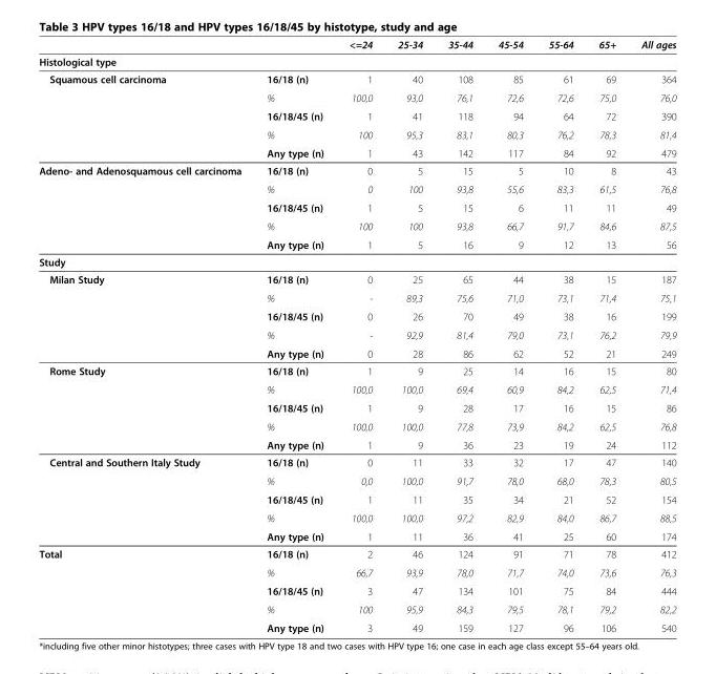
<table><thead><tr><td></td><td></td><td>&lt;=24</td><td>25-34</td><td>35-44</td><td>45-54</td><td>55-64</td><td>65+</td><td>All ages</td></tr></thead><tbody><tr><td colspan="9">Histological type</td></tr><tr><td rowspan="5">Squamous cell carcinoma</td><td>16/18 (n)</td><td>1</td><td>40</td><td>108</td><td>85</td><td>61</td><td>69</td><td>364</td></tr><tr><td>%</td><td>100,0</td><td>93,0</td><td>76,1</td><td>72,6</td><td>72,6</td><td>75,0</td><td>76,0</td></tr><tr><td>16/18/45 (n)</td><td>1</td><td>41</td><td>118</td><td>94</td><td>64</td><td>72</td><td>390</td></tr><tr><td>%</td><td>100</td><td>95,3</td><td>83,1</td><td>80,3</td><td>76,2</td><td>78,3</td><td>81,4</td></tr><tr><td>Any type (n)</td><td>1</td><td>43</td><td>142</td><td>117</td><td>84</td><td>92</td><td>479</td></tr><tr><td rowspan="5">Adeno- and Adenosquamous cell carcinoma</td><td>16/18 (n)</td><td>0</td><td>5</td><td>15</td><td>5</td><td>10</td><td>8</td><td>43</td></tr><tr><td>%</td><td>0</td><td>100</td><td>93,8</td><td>55,6</td><td>83,3</td><td>61,5</td><td>76,8</td></tr><tr><td>16/18/45 (n)</td><td>1</td><td>5</td><td>15</td><td>6</td><td>11</td><td>11</td><td>49</td></tr><tr><td>%</td><td>100</td><td>100</td><td>93,8</td><td>66,7</td><td>91,7</td><td>84,6</td><td>87,5</td></tr><tr><td>Any type (n)</td><td>1</td><td>5</td><td>16</td><td>9</td><td>12</td><td>13</td><td>56</td></tr><tr><td colspan="9">Study</td></tr><tr><td rowspan="5">Milan Study</td><td>16/18 (n)</td><td>0</td><td>25</td><td>65</td><td>44</td><td>38</td><td>15</td><td>187</td></tr><tr><td>%</td><td>-</td><td>89,3</td><td>75,6</td><td>71,0</td><td>73,1</td><td>71,4</td><td>75,1</td></tr><tr><td>16/18/45 (n)</td><td>0</td><td>26</td><td>70</td><td>49</td><td>38</td><td>16</td><td>199</td></tr><tr><td>%</td><td>-</td><td>92,9</td><td>81,4</td><td>79,0</td><td>73,1</td><td>76,2</td><td>79,9</td></tr><tr><td>Any type (n)</td><td>0</td><td>28</td><td>86</td><td>62</td><td>52</td><td>21</td><td>249</td></tr><tr><td rowspan="5">Rome Study</td><td>16/18 (n)</td><td>1</td><td>9</td><td>25</td><td>14</td><td>16</td><td>15</td><td>80</td></tr><tr><td>%</td><td>100,0</td><td>100,0</td><td>69,4</td><td>60,9</td><td>84,2</td><td>62,5</td><td>71,4</td></tr><tr><td>16/18/45 (n)</td><td>1</td><td>9</td><td>28</td><td>17</td><td>16</td><td>15</td><td>86</td></tr><tr><td>%</td><td>100,0</td><td>100,0</td><td>77,8</td><td>73,9</td><td>84,2</td><td>62,5</td><td>76,8</td></tr><tr><td>Any type (n)</td><td>1</td><td>9</td><td>36</td><td>23</td><td>19</td><td>24</td><td>112</td></tr><tr><td rowspan="5">Central and Southern Italy Study</td><td>16/18 (n)</td><td>0</td><td>11</td><td>33</td><td>32</td><td>17</td><td>47</td><td>140</td></tr><tr><td>%</td><td>0,0</td><td>100,0</td><td>91,7</td><td>78,0</td><td>68,0</td><td>78,3</td><td>80,5</td></tr><tr><td>16/18/45 (n)</td><td>1</td><td>11</td><td>35</td><td>34</td><td>21</td><td>52</td><td>154</td></tr><tr><td>%</td><td>100,0</td><td>100,0</td><td>97,2</td><td>82,9</td><td>84,0</td><td>86,7</td><td>88,5</td></tr><tr><td>Any type (n)</td><td>1</td><td>11</td><td>36</td><td>41</td><td>25</td><td>60</td><td>174</td></tr><tr><td rowspan="5">Total</td><td>16/18 (n)</td><td>2</td><td>46</td><td>124</td><td>91</td><td>71</td><td>78</td><td>412</td></tr><tr><td>%</td><td>66,7</td><td>93,9</td><td>78,0</td><td>71,7</td><td>74,0</td><td>73,6</td><td>76,3</td></tr><tr><td>16/18/45 (n)</td><td>3</td><td>47</td><td>134</td><td>101</td><td>75</td><td>84</td><td>444</td></tr><tr><td>%</td><td>100</td><td>95,9</td><td>84,3</td><td>79,5</td><td>78,1</td><td>79,2</td><td>82,2</td></tr><tr><td>Any type (n)</td><td>3</td><td>49</td><td>159</td><td>127</td><td>96</td><td>106</td><td>540</td></tr></tbody></table>